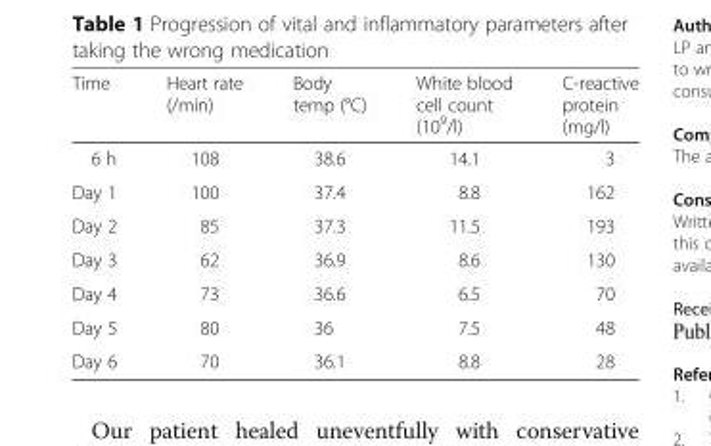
<table><thead><tr><td>Time</td><td>Heart rate (/min)</td><td>Body temp (°C)</td><td>White blood cell count (10<sup>9</sup>/l)</td><td>C-reactive protein (mg/l)</td></tr></thead><tbody><tr><td>6 h</td><td>108</td><td>38.6</td><td>14.1</td><td>3</td></tr><tr><td>Day 1</td><td>100</td><td>37.4</td><td>8.8</td><td>162</td></tr><tr><td>Day 2</td><td>85</td><td>37.3</td><td>11.5</td><td>193</td></tr><tr><td>Day 3</td><td>62</td><td>36.9</td><td>8.6</td><td>130</td></tr><tr><td>Day 4</td><td>73</td><td>36.6</td><td>6.5</td><td>70</td></tr><tr><td>Day 5</td><td>80</td><td>36</td><td>7.5</td><td>48</td></tr><tr><td>Day 6</td><td>70</td><td>36.1</td><td>8.8</td><td>28</td></tr></tbody></table>